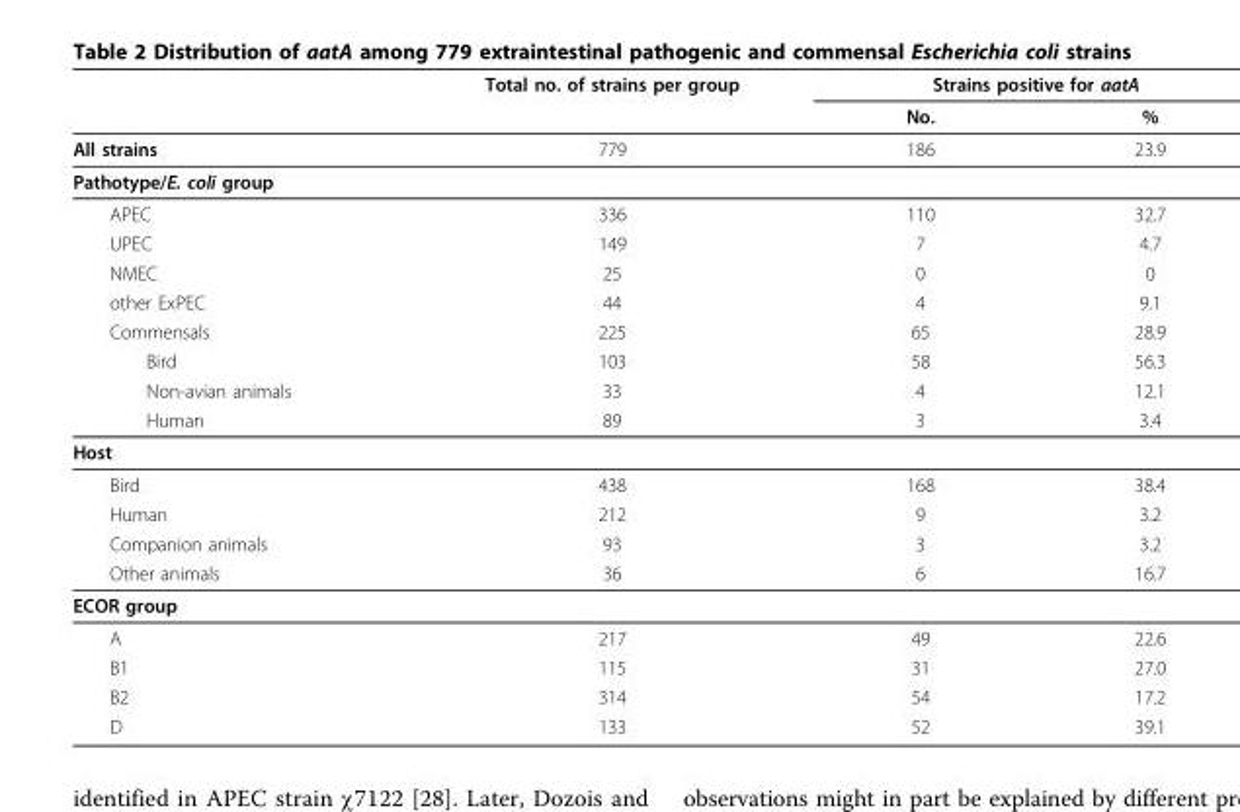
<table><thead><tr><td rowspan="2"></td><td rowspan="2">Total no. of strains per group</td><td colspan="2">Strains positive for aatA</td></tr><tr><td>No.</td><td>%</td></tr></thead><tbody><tr><td>All strains</td><td>779</td><td>186</td><td>23.9</td></tr><tr><td colspan="4">Pathotype/E. coli group</td></tr><tr><td>APEC</td><td>336</td><td>110</td><td>32.7</td></tr><tr><td>UPEC</td><td>149</td><td>7</td><td>4.7</td></tr><tr><td>NMEC</td><td>25</td><td>0</td><td>0</td></tr><tr><td>other ExPEC</td><td>44</td><td>4</td><td>9.1</td></tr><tr><td>Commensals</td><td>225</td><td>65</td><td>28.9</td></tr><tr><td>Bird</td><td>103</td><td>58</td><td>56.3</td></tr><tr><td>Non-avian animals</td><td>33</td><td>4</td><td>12.1</td></tr><tr><td>Human</td><td>89</td><td>3</td><td>3.4</td></tr><tr><td colspan="4">Host</td></tr><tr><td>Bird</td><td>438</td><td>168</td><td>38.4</td></tr><tr><td>Human</td><td>212</td><td>9</td><td>3.2</td></tr><tr><td>Companion animals</td><td>93</td><td>3</td><td>3.2</td></tr><tr><td>Other animals</td><td>36</td><td>6</td><td>16.7</td></tr><tr><td colspan="4">ECOR group</td></tr><tr><td>A</td><td>217</td><td>49</td><td>22.6</td></tr><tr><td>B1</td><td>115</td><td>31</td><td>27.0</td></tr><tr><td>B2</td><td>314</td><td>54</td><td>17.2</td></tr><tr><td>D</td><td>133</td><td>52</td><td>39.1</td></tr></tbody></table>